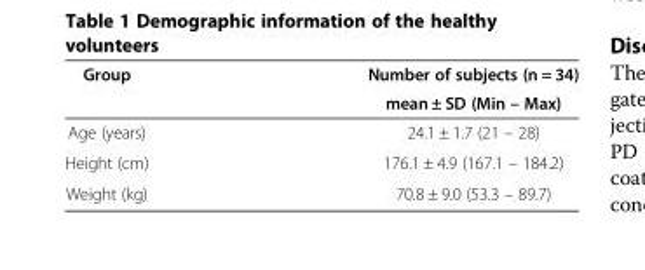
<table><thead><tr><td rowspan="2">Group</td><td rowspan="2">Number of subjects (n = 34) mean ± SD (Min – Max)</td></tr><tr></tr></thead><tbody><tr><td>Age (years)</td><td>24.1 ± 1.7 (21 – 28)</td></tr><tr><td>Height (cm)</td><td>176.1 ± 4.9 (167.1 – 184.2)</td></tr><tr><td>Weight (kg)</td><td>70.8 ± 9.0 (53.3 – 89.7)</td></tr></tbody></table>